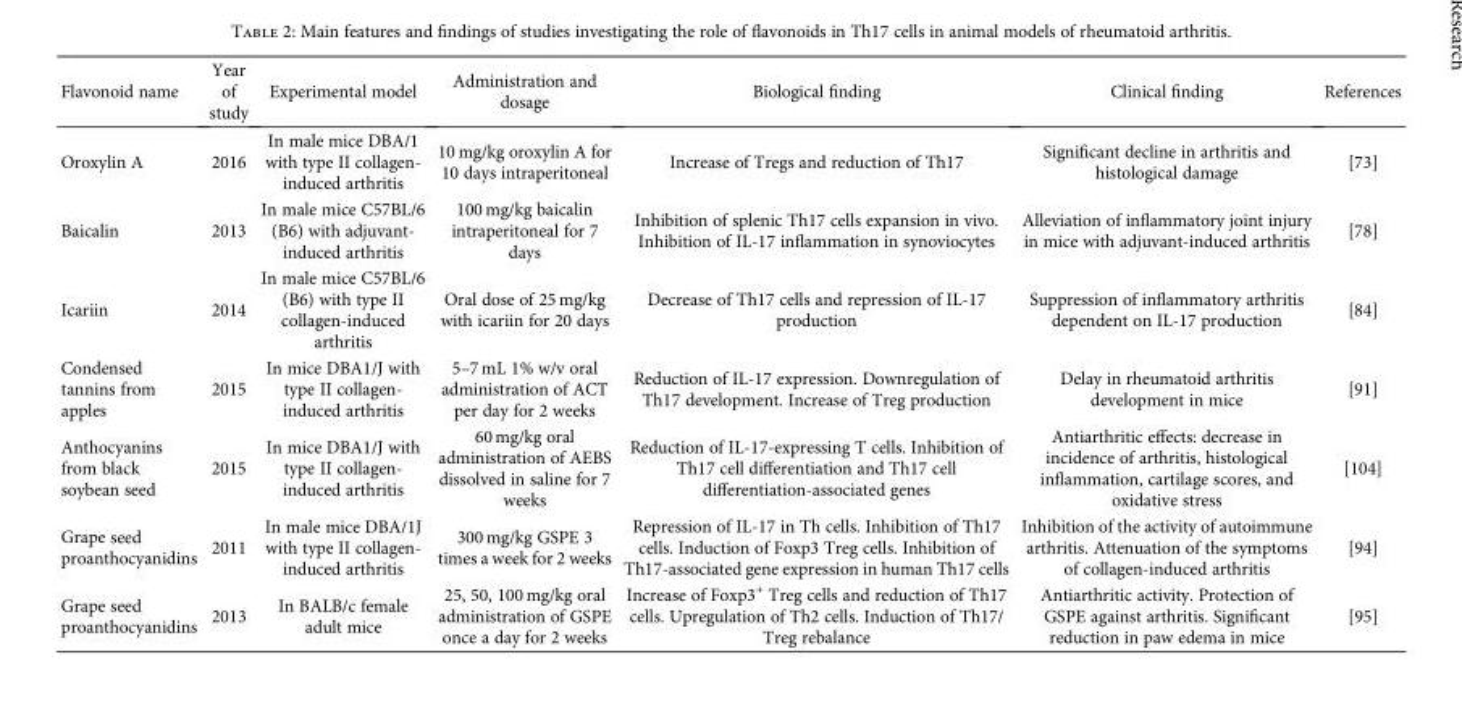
<table><thead><tr><td>Flavonoid name</td><td>Year of study</td><td>Experimental model</td><td>Administration and dosage</td><td>Biological finding</td><td>Clinical finding</td><td>References</td></tr></thead><tbody><tr><td>Oroxylin A</td><td>2016</td><td>In male mice DBA/1 with type II collagen- induced arthritis</td><td>10 mg/kg oroxylin A for 10 days intraperitoneal</td><td>Increase of Tregs and reduction of Th17</td><td>Significant decline in arthritis and histological damage</td><td>[73]</td></tr><tr><td>Baicalin</td><td>2013</td><td>In male mice C57BL/6 (B6) with adjuvant- induced arthritis</td><td>100 mg/kg baicalin intraperitoneal for 7 days</td><td>Inhibition of splenic Th17 cells expansion in vivo. Inhibition of IL-17 inflammation in synoviocytes</td><td>Alleviation of inflammatory joint injury in mice with adjuvant-induced arthritis</td><td>[78]</td></tr><tr><td>Icariin</td><td>2014</td><td>In male mice C57BL/6 (B6) with type II collagen-induced arthritis</td><td>Oral dose of 25 mg/kg with icariin for 20 days</td><td>Decrease of Th17 cells and repression of IL-17 production</td><td>Suppression of inflammatory arthritis dependent on IL-17 production</td><td>[84]</td></tr><tr><td>Condensed tannins from apples</td><td>2015</td><td>In mice DBA1/J with type II collagen- induced arthritis</td><td>5–7 mL 1% w/v oral administration of ACT per day for 2 weeks</td><td>Reduction of IL-17 expression. Downregulation of Th17 development. Increase of Treg production</td><td>Delay in rheumatoid arthritis development in mice</td><td>[91]</td></tr><tr><td>Anthocyanins from black soybean seed</td><td>2015</td><td>In mice DBA1/J with type II collagen- induced arthritis</td><td>60 mg/kg oral administration of AEBS dissolved in saline for 7 weeks</td><td>Reduction of IL-17-expressing T cells. Inhibition of Th17 cell differentiation and Th17 cell differentiation-associated genes</td><td>Antiarthritic effects: decrease in incidence of arthritis, histological inflammation, cartilage scores, and oxidative stress</td><td>[104]</td></tr><tr><td>Grape seed proanthocyanidins</td><td>2011</td><td>In male mice DBA/1J with type II collagen- induced arthritis</td><td>300 mg/kg GSPE 3 times a week for 2 weeks</td><td>Repression of IL-17 in Th cells. Inhibition of Th17 cells. Induction of Foxp3 Treg cells. Inhibition of Th17-associated gene expression in human Th17 cells</td><td>Inhibition of the activity of autoimmune arthritis. Attenuation of the symptoms of collagen-induced arthritis</td><td>[94]</td></tr><tr><td>Grape seed proanthocyanidins</td><td>2013</td><td>In BALB/c female adult mice</td><td>25, 50, 100 mg/kg oral administration of GSPE once a day for 2 weeks</td><td>Increase of Foxp3<sup>+</sup> Treg cells and reduction of Th17 cells. Upregulation of Th2 cells. Induction of Th17/ Treg rebalance</td><td>Antiarthritic activity. Protection of GSPE against arthritis. Significant reduction in paw edema in mice</td><td>[95]</td></tr></tbody></table>